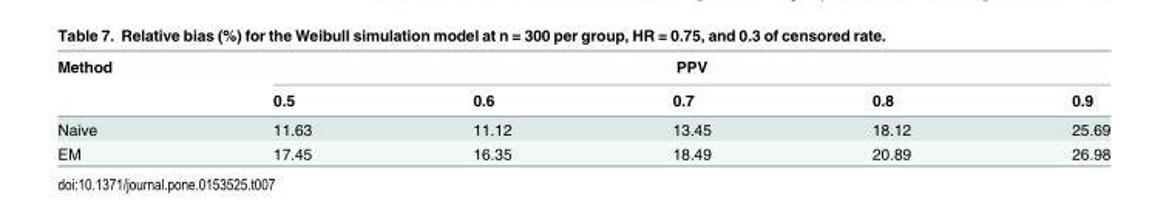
<table><thead><tr><td rowspan="2">Method</td><td colspan="5">PPV</td></tr><tr><td>0.5</td><td>0.6</td><td>0.7</td><td>0.8</td><td>0.9</td></tr></thead><tbody><tr><td>Naive</td><td>11.63</td><td>11.12</td><td>13.45</td><td>18.12</td><td>25.69</td></tr><tr><td>EM</td><td>17.45</td><td>16.35</td><td>18.49</td><td>20.89</td><td>26.98</td></tr></tbody></table>